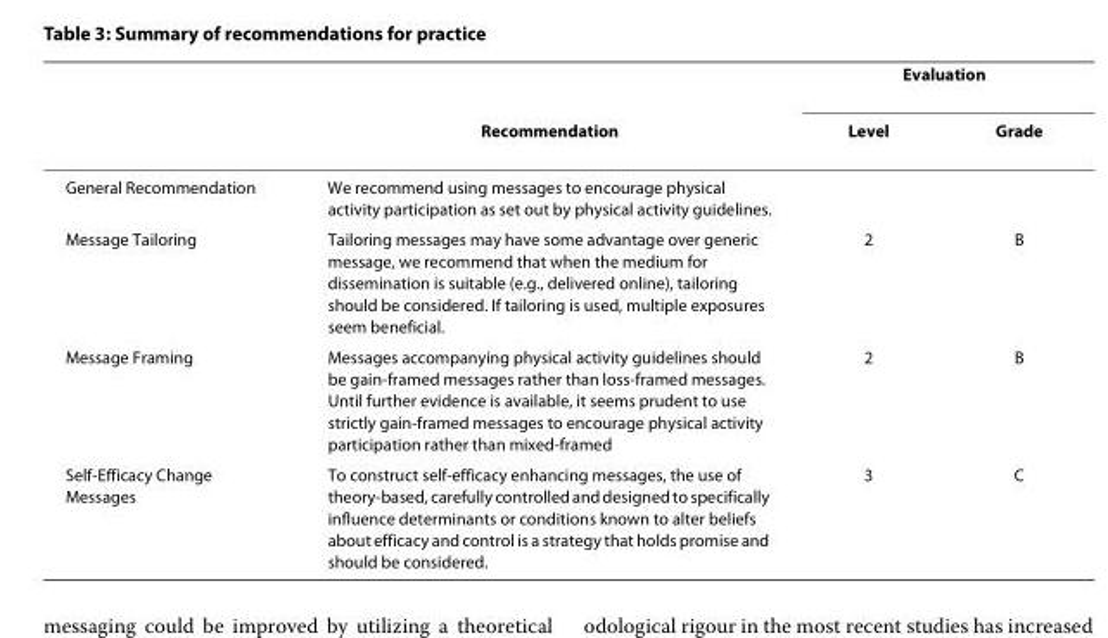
<table><thead><tr><td rowspan="2"></td><td rowspan="2">Recommendation</td><td colspan="2">Evaluation</td></tr><tr><td>Level</td><td>Grade</td></tr></thead><tbody><tr><td>General Recommendation</td><td>We recommend using messages to encourage physical activity participation as set out by physical activity guidelines.</td><td></td><td></td></tr><tr><td>Message Tailoring</td><td>Tailoring messages may have some advantage over generic message, we recommend that when the medium for dissemination is suitable (e.g., delivered online), tailoring should be considered. If tailoring is used, multiple exposures seem beneficial.</td><td>2</td><td>B</td></tr><tr><td>Message Framing</td><td>Messages accompanying physical activity guidelines should be gain-framed messages rather than loss-framed messages. Until further evidence is available, it seems prudent to use strictly gain-framed messages to encourage physical activity participation rather than mixed-framed</td><td>2</td><td>B</td></tr><tr><td>Self-Efficacy Change Messages</td><td>To construct self-efficacy enhancing messages, the use of theory-based, carefully controlled and designed to specifically influence determinants or conditions known to alter beliefs about efficacy and control is a strategy that holds promise and should be considered.</td><td>3</td><td>C</td></tr></tbody></table>